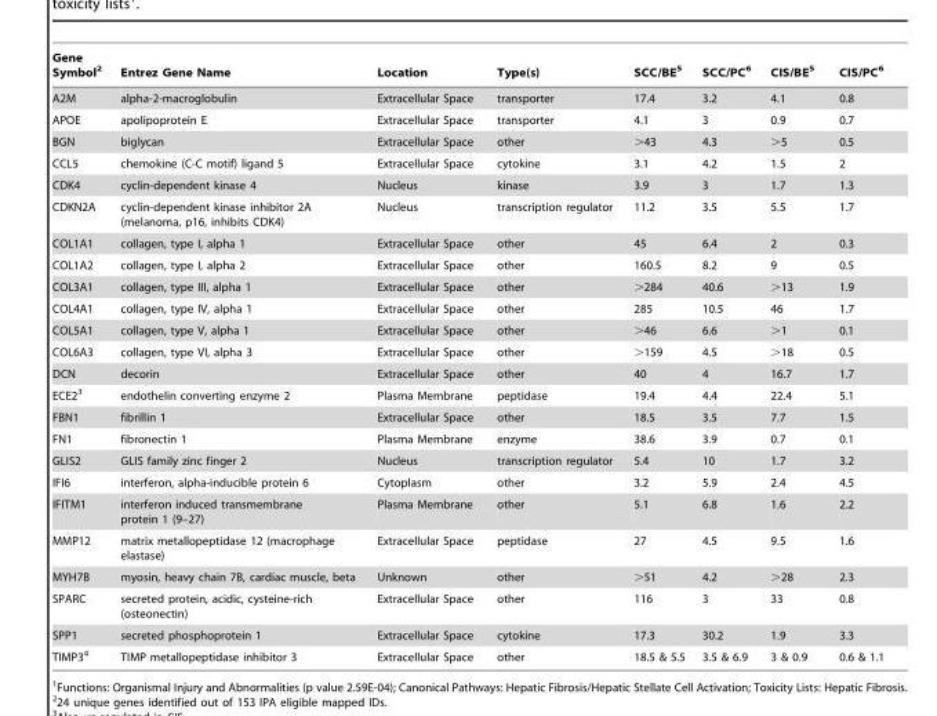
<table><thead><tr><td>Gene Symbol<sup>2</sup></td><td>Entrez Gene Name</td><td>Location</td><td>Type(s)</td><td>SCC/BE<sup>5</sup></td><td>SCC/PC<sup>6</sup></td><td>CIS/BE<sup>5</sup></td><td>CIS/PC<sup>6</sup></td></tr></thead><tbody><tr><td>A2M</td><td>alpha-2-macroglobulin</td><td>Extracellular Space</td><td>transporter</td><td>17.4</td><td>3.2</td><td>4.1</td><td>0.8</td></tr><tr><td>APOE</td><td>apolipoprotein E</td><td>Extracellular Space</td><td>transporter</td><td>4.1</td><td>3</td><td>0.9</td><td>0.7</td></tr><tr><td>BGN</td><td>biglycan</td><td>Extracellular Space</td><td>other</td><td>&gt;43</td><td>4.3</td><td>&gt;5</td><td>0.5</td></tr><tr><td>CCL5</td><td>chemokine (C-C motif) ligand 5</td><td>Extracellular Space</td><td>cytokine</td><td>3.1</td><td>4.2</td><td>1.5</td><td>2</td></tr><tr><td>CDK4</td><td>cyclin-dependent kinase 4</td><td>Nucleus</td><td>kinase</td><td>3.9</td><td>3</td><td>1.7</td><td>1.3</td></tr><tr><td>CDKN2A</td><td>cyclin-dependent kinase inhibitor 2A (melanoma, p16, inhibits CDK4)</td><td>Nucleus</td><td>transcription regulator</td><td>11.2</td><td>3.5</td><td>5.5</td><td>1.7</td></tr><tr><td>COL1A1</td><td>collagen, type I, alpha 1</td><td>Extracellular Space</td><td>other</td><td>45</td><td>6.4</td><td>2</td><td>0.3</td></tr><tr><td>COL1A2</td><td>collagen, type I, alpha 2</td><td>Extracellular Space</td><td>other</td><td>160.5</td><td>8.2</td><td>9</td><td>0.5</td></tr><tr><td>COL3A1</td><td>collagen, type III, alpha 1</td><td>Extracellular Space</td><td>other</td><td>&gt;284</td><td>40.6</td><td>&gt;13</td><td>1.9</td></tr><tr><td>COL4A1</td><td>collagen, type IV, alpha 1</td><td>Extracellular Space</td><td>other</td><td>285</td><td>10.5</td><td>46</td><td>1.7</td></tr><tr><td>COL5A1</td><td>collagen, type V, alpha 1</td><td>Extracellular Space</td><td>other</td><td>&gt;46</td><td>6.6</td><td>&gt;1</td><td>0.1</td></tr><tr><td>COL6A3</td><td>collagen, type VI, alpha 3</td><td>Extracellular Space</td><td>other</td><td>&gt;159</td><td>4.5</td><td>&gt;18</td><td>0.5</td></tr><tr><td>DCN</td><td>decorin</td><td>Extracellular Space</td><td>other</td><td>40</td><td>4</td><td>16.7</td><td>1.7</td></tr><tr><td>ECE2<sup>3</sup></td><td>endothelin converting enzyme 2</td><td>Plasma Membrane</td><td>peptidase</td><td>19.4</td><td>4.4</td><td>22.4</td><td>5.1</td></tr><tr><td>FBN1</td><td>fibrillin 1</td><td>Extracellular Space</td><td>other</td><td>18.5</td><td>3.5</td><td>7.7</td><td>1.5</td></tr><tr><td>FN1</td><td>fibronectin 1</td><td>Plasma Membrane</td><td>enzyme</td><td>38.6</td><td>3.9</td><td>0.7</td><td>0.1</td></tr><tr><td>GLIS2</td><td>GLIS family zinc finger 2</td><td>Nucleus</td><td>transcription regulator</td><td>5.4</td><td>10</td><td>1.7</td><td>3.2</td></tr><tr><td>IFI6</td><td>interferon, alpha-inducible protein 6</td><td>Cytoplasm</td><td>other</td><td>3.2</td><td>5.9</td><td>2.4</td><td>4.5</td></tr><tr><td>IFITM1</td><td>interferon induced transmembrane protein 1 (9–27)</td><td>Plasma Membrane</td><td>other</td><td>5.1</td><td>6.8</td><td>1.6</td><td>2.2</td></tr><tr><td>MMP12</td><td>matrix metallopeptidase 12 (macrophage elastase)</td><td>Extracellular Space</td><td>peptidase</td><td>27</td><td>4.5</td><td>9.5</td><td>1.6</td></tr><tr><td>MYH7B</td><td>myosin, heavy chain 7B, cardiac muscle, beta</td><td>Unknown</td><td>other</td><td>&gt;51</td><td>4.2</td><td>&gt;28</td><td>2.3</td></tr><tr><td>SPARC</td><td>secreted protein, acidic, cysteine-rich (osteonectin)</td><td>Extracellular Space</td><td>other</td><td>116</td><td>3</td><td>33</td><td>0.8</td></tr><tr><td>SPP1</td><td>secreted phosphoprotein 1</td><td>Extracellular Space</td><td>cytokine</td><td>17.3</td><td>30.2</td><td>1.9</td><td>3.3</td></tr><tr><td>TIMP3<sup>4</sup></td><td>TIMP metallopeptidase inhibitor 3</td><td>Extracellular Space</td><td>other</td><td>18.5 &amp; 5.5</td><td>3.5 &amp; 6.9</td><td>3 &amp; 0.9</td><td>0.6 &amp; 1.1</td></tr></tbody></table>